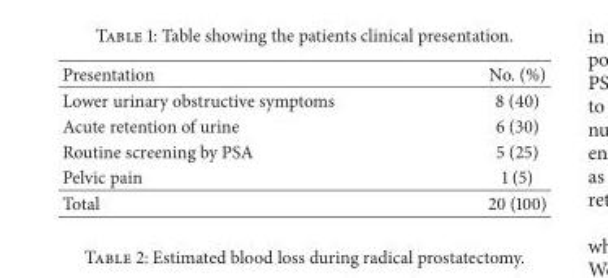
<table><thead><tr><td>Presentation</td><td>No. (%)</td></tr></thead><tbody><tr><td>Lower urinary obstructive symptoms</td><td>8 (40)</td></tr><tr><td>Acute retention of urine</td><td>6 (30)</td></tr><tr><td>Routine screening by PSA</td><td>5 (25)</td></tr><tr><td>Pelvic pain</td><td>1 (5)</td></tr><tr><td>Total</td><td>20 (100)</td></tr></tbody></table>